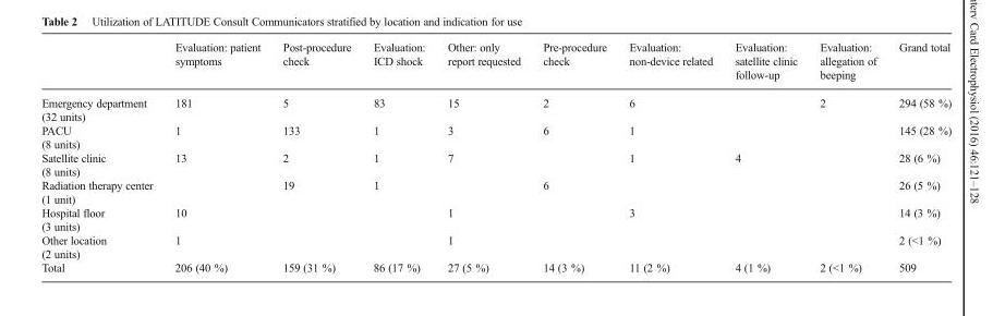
<table><thead><tr><td></td><td>Evaluation: patient symptoms</td><td>Post-procedure check</td><td>Evaluation: ICD shock</td><td>Other: only report requested</td><td>Pre-procedure check</td><td>Evaluation: non-device related</td><td>Evaluation: satellite clinic follow-up</td><td>Evaluation: allegation of beeping</td><td>Grand total</td></tr></thead><tbody><tr><td>Emergency department (32 units)</td><td>181</td><td>5</td><td>83</td><td>15</td><td>2</td><td>6</td><td></td><td>2</td><td>294 (58 %)</td></tr><tr><td>PACU (8 units)</td><td>1</td><td>133</td><td>1</td><td>3</td><td>6</td><td>1</td><td></td><td></td><td>145 (28 %)</td></tr><tr><td>Satellite clinic (8 units)</td><td>13</td><td>2</td><td>1</td><td>7</td><td></td><td>1</td><td>4</td><td></td><td>28 (6 %)</td></tr><tr><td>Radiation therapy center (1 unit)</td><td></td><td>19</td><td>1</td><td></td><td>6</td><td></td><td></td><td></td><td>26 (5 %)</td></tr><tr><td>Hospital floor (3 units)</td><td>10</td><td></td><td></td><td>1</td><td></td><td>3</td><td></td><td></td><td>14 (3 %)</td></tr><tr><td>Other location (2 units)</td><td>1</td><td></td><td></td><td>1</td><td></td><td></td><td></td><td></td><td>2 (&lt;1 %)</td></tr><tr><td>Total</td><td>206 (40 %)</td><td>159 (31 %)</td><td>86 (17 %)</td><td>27 (5 %)</td><td>14 (3 %)</td><td>11 (2 %)</td><td>4 (1 %)</td><td>2 (&lt;1 %)</td><td>509</td></tr></tbody></table>